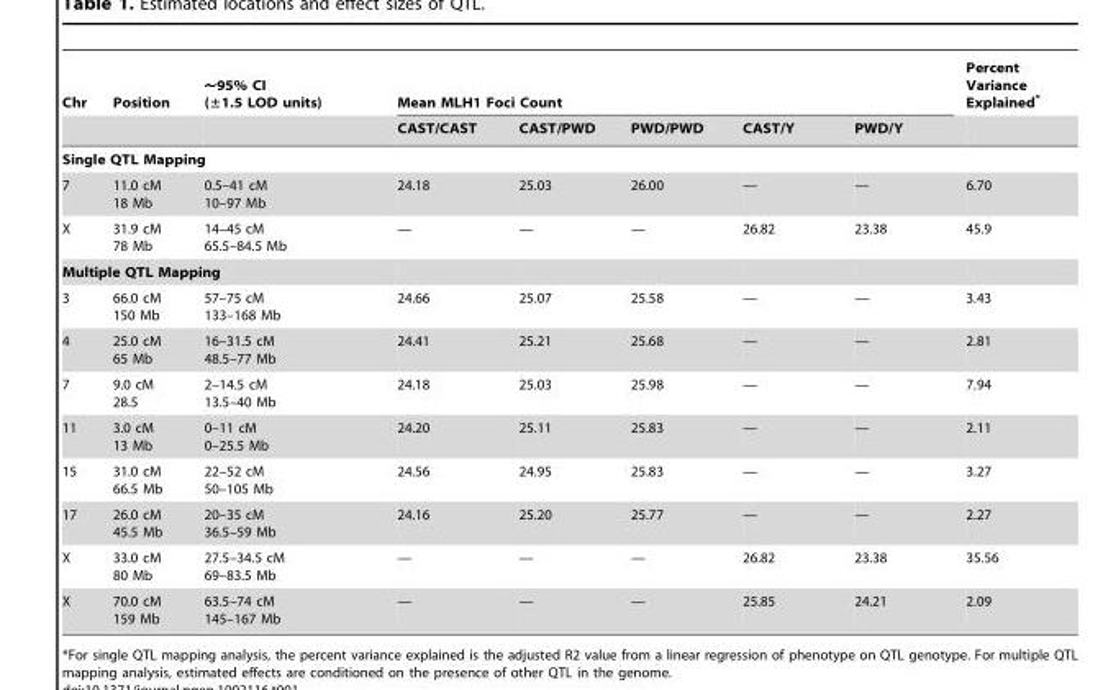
<table><thead><tr><td rowspan="2">Chr</td><td rowspan="2">Position</td><td rowspan="2">∼95% CI (±1.5 LOD units)</td><td colspan="5">Mean MLH1 Foci Count</td><td rowspan="2">Percent Variance Explained*</td></tr><tr><td>CAST/CAST</td><td>CAST/PWD</td><td>PWD/PWD</td><td>CAST/Y</td><td>PWD/Y</td></tr></thead><tbody><tr><td colspan="9">Single QTL Mapping</td></tr><tr><td>7</td><td>11.0 cM 18 Mb</td><td>0.5–41 cM 10–97 Mb</td><td>24.18</td><td>25.03</td><td>26.00</td><td>—</td><td>—</td><td>6.70</td></tr><tr><td>X</td><td>31.9 cM 78 Mb</td><td>14–45 cM 65.5–84.5 Mb</td><td>—</td><td>—</td><td>—</td><td>26.82</td><td>23.38</td><td>45.9</td></tr><tr><td colspan="9">Multiple QTL Mapping</td></tr><tr><td>3</td><td>66.0 cM 150 Mb</td><td>57–75 cM 133–168 Mb</td><td>24.66</td><td>25.07</td><td>25.58</td><td>—</td><td>—</td><td>3.43</td></tr><tr><td>4</td><td>25.0 cM 65 Mb</td><td>16–31.5 cM 48.5–77 Mb</td><td>24.41</td><td>25.21</td><td>25.68</td><td>—</td><td>—</td><td>2.81</td></tr><tr><td>7</td><td>9.0 cM 28.5</td><td>2–14.5 cM 13.5–40 Mb</td><td>24.18</td><td>25.03</td><td>25.98</td><td>—</td><td>—</td><td>7.94</td></tr><tr><td>11</td><td>3.0 cM 13 Mb</td><td>0–11 cM 0–25.5 Mb</td><td>24.20</td><td>25.11</td><td>25.83</td><td>—</td><td>—</td><td>2.11</td></tr><tr><td>15</td><td>31.0 cM 66.5 Mb</td><td>22–52 cM 50–105 Mb</td><td>24.56</td><td>24.95</td><td>25.83</td><td>—</td><td>—</td><td>3.27</td></tr><tr><td>17</td><td>26.0 cM 45.5 Mb</td><td>20–35 cM 36.5–59 Mb</td><td>24.16</td><td>25.20</td><td>25.77</td><td>—</td><td>—</td><td>2.27</td></tr><tr><td>X</td><td>33.0 cM 80 Mb</td><td>27.5–34.5 cM 69–83.5 Mb</td><td>—</td><td>—</td><td>—</td><td>26.82</td><td>23.38</td><td>35.56</td></tr><tr><td>X</td><td>70.0 cM 159 Mb</td><td>63.5–74 cM 145–167 Mb</td><td>—</td><td>—</td><td>—</td><td>25.85</td><td>24.21</td><td>2.09</td></tr></tbody></table>